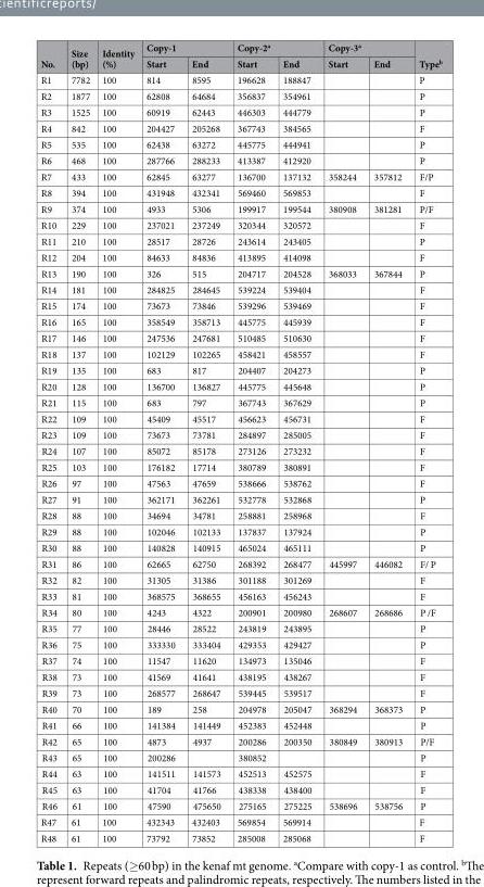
<table><thead><tr><td rowspan="2">No.</td><td rowspan="2">Size (bp)</td><td rowspan="2">Identity (%)</td><td colspan="2">Copy-1</td><td colspan="2">Copy-2<sup>a</sup></td><td colspan="2">Copy-3<sup>a</sup></td><td rowspan="2">Type<sup>b</sup></td></tr><tr><td>Start</td><td>End</td><td>Start</td><td>End</td><td>Start</td><td>End</td></tr></thead><tbody><tr><td>R1</td><td>7782</td><td>100</td><td>814</td><td>8595</td><td>196628</td><td>188847</td><td></td><td></td><td>P</td></tr><tr><td>R2</td><td>1877</td><td>100</td><td>62808</td><td>64684</td><td>356837</td><td>354961</td><td></td><td></td><td>P</td></tr><tr><td>R3</td><td>1525</td><td>100</td><td>60919</td><td>62443</td><td>446303</td><td>444779</td><td></td><td></td><td>P</td></tr><tr><td>R4</td><td>842</td><td>100</td><td>204427</td><td>205268</td><td>367743</td><td>384565</td><td></td><td></td><td>F</td></tr><tr><td>R5</td><td>535</td><td>100</td><td>62438</td><td>63272</td><td>445775</td><td>444941</td><td></td><td></td><td>P</td></tr><tr><td>R6</td><td>468</td><td>100</td><td>287766</td><td>288233</td><td>413387</td><td>412920</td><td></td><td></td><td>P</td></tr><tr><td>R7</td><td>433</td><td>100</td><td>62845</td><td>63277</td><td>136700</td><td>137132</td><td>358244</td><td>357812</td><td>F/P</td></tr><tr><td>R8</td><td>394</td><td>100</td><td>431948</td><td>432341</td><td>569460</td><td>569853</td><td></td><td></td><td>F</td></tr><tr><td>R9</td><td>374</td><td>100</td><td>4933</td><td>5306</td><td>199917</td><td>199544</td><td>380908</td><td>381281</td><td>P/F</td></tr><tr><td>R10</td><td>229</td><td>100</td><td>237021</td><td>237249</td><td>320344</td><td>320572</td><td></td><td></td><td>F</td></tr><tr><td>R11</td><td>210</td><td>100</td><td>28517</td><td>28726</td><td>243614</td><td>243405</td><td></td><td></td><td>P</td></tr><tr><td>R12</td><td>204</td><td>100</td><td>84633</td><td>84836</td><td>413895</td><td>414098</td><td></td><td></td><td>F</td></tr><tr><td>R13</td><td>190</td><td>100</td><td>326</td><td>515</td><td>204717</td><td>204528</td><td>368033</td><td>367844</td><td>P</td></tr><tr><td>R14</td><td>181</td><td>100</td><td>284825</td><td>284645</td><td>539224</td><td>539404</td><td></td><td></td><td>F</td></tr><tr><td>R15</td><td>174</td><td>100</td><td>73673</td><td>73846</td><td>539296</td><td>539469</td><td></td><td></td><td>F</td></tr><tr><td>R16</td><td>165</td><td>100</td><td>358549</td><td>358713</td><td>445775</td><td>445939</td><td></td><td></td><td>F</td></tr><tr><td>R17</td><td>146</td><td>100</td><td>247536</td><td>247681</td><td>510485</td><td>510630</td><td></td><td></td><td>F</td></tr><tr><td>R18</td><td>137</td><td>100</td><td>102129</td><td>102265</td><td>458421</td><td>458557</td><td></td><td></td><td>F</td></tr><tr><td>R19</td><td>135</td><td>100</td><td>683</td><td>817</td><td>204407</td><td>204273</td><td></td><td></td><td>P</td></tr><tr><td>R20</td><td>128</td><td>100</td><td>136700</td><td>136827</td><td>445775</td><td>445648</td><td></td><td></td><td>P</td></tr><tr><td>R21</td><td>115</td><td>100</td><td>683</td><td>797</td><td>367743</td><td>367629</td><td></td><td></td><td>P</td></tr><tr><td>R22</td><td>109</td><td>100</td><td>45409</td><td>45517</td><td>456623</td><td>456731</td><td></td><td></td><td>F</td></tr><tr><td>R23</td><td>109</td><td>100</td><td>73673</td><td>73781</td><td>284897</td><td>285005</td><td></td><td></td><td>F</td></tr><tr><td>R24</td><td>107</td><td>100</td><td>85072</td><td>85178</td><td>273126</td><td>273232</td><td></td><td></td><td>F</td></tr><tr><td>R25</td><td>103</td><td>100</td><td>176182</td><td>17714</td><td>380789</td><td>380891</td><td></td><td></td><td>F</td></tr><tr><td>R26</td><td>97</td><td>100</td><td>47563</td><td>47659</td><td>538666</td><td>538762</td><td></td><td></td><td>F</td></tr><tr><td>R27</td><td>91</td><td>100</td><td>362171</td><td>362261</td><td>532778</td><td>532868</td><td></td><td></td><td>P</td></tr><tr><td>R28</td><td>88</td><td>100</td><td>34694</td><td>34781</td><td>258881</td><td>258968</td><td></td><td></td><td>F</td></tr><tr><td>R29</td><td>88</td><td>100</td><td>102046</td><td>102133</td><td>137837</td><td>137924</td><td></td><td></td><td>P</td></tr><tr><td>R30</td><td>88</td><td>100</td><td>140828</td><td>140915</td><td>465024</td><td>465111</td><td></td><td></td><td>P</td></tr><tr><td>R31</td><td>86</td><td>100</td><td>62665</td><td>62750</td><td>268392</td><td>268477</td><td>445997</td><td>446082</td><td>F/ P</td></tr><tr><td>R32</td><td>82</td><td>100</td><td>31305</td><td>31386</td><td>301188</td><td>301269</td><td></td><td></td><td>F</td></tr><tr><td>R33</td><td>81</td><td>100</td><td>368575</td><td>368655</td><td>456163</td><td>456243</td><td></td><td></td><td>F</td></tr><tr><td>R34</td><td>80</td><td>100</td><td>4243</td><td>4322</td><td>200901</td><td>200980</td><td>268607</td><td>268686</td><td>P /F</td></tr><tr><td>R35</td><td>77</td><td>100</td><td>28446</td><td>28522</td><td>243819</td><td>243895</td><td></td><td></td><td>P</td></tr><tr><td>R36</td><td>75</td><td>100</td><td>333330</td><td>333404</td><td>429353</td><td>429427</td><td></td><td></td><td>P</td></tr><tr><td>R37</td><td>74</td><td>100</td><td>11547</td><td>11620</td><td>134973</td><td>135046</td><td></td><td></td><td>F</td></tr><tr><td>R38</td><td>73</td><td>100</td><td>41569</td><td>41641</td><td>438195</td><td>438267</td><td></td><td></td><td>F</td></tr><tr><td>R39</td><td>73</td><td>100</td><td>268577</td><td>268647</td><td>539445</td><td>539517</td><td></td><td></td><td>F</td></tr><tr><td>R40</td><td>70</td><td>100</td><td>189</td><td>258</td><td>204978</td><td>205047</td><td>368294</td><td>368373</td><td>P</td></tr><tr><td>R41</td><td>66</td><td>100</td><td>141384</td><td>141449</td><td>452383</td><td>452448</td><td></td><td></td><td>P</td></tr><tr><td>R42</td><td>65</td><td>100</td><td>4873</td><td>4937</td><td>200286</td><td>200350</td><td>380849</td><td>380913</td><td>P/F</td></tr><tr><td>R43</td><td>65</td><td>100</td><td>200286</td><td></td><td>380852</td><td></td><td></td><td></td><td>P</td></tr><tr><td>R44</td><td>63</td><td>100</td><td>141511</td><td>141573</td><td>452513</td><td>452575</td><td></td><td></td><td>F</td></tr><tr><td>R45</td><td>63</td><td>100</td><td>41704</td><td>41766</td><td>438338</td><td>438400</td><td></td><td></td><td>F</td></tr><tr><td>R46</td><td>61</td><td>100</td><td>47590</td><td>475650</td><td>275165</td><td>275225</td><td>538696</td><td>538756</td><td>P</td></tr><tr><td>R47</td><td>61</td><td>100</td><td>432343</td><td>432403</td><td>569854</td><td>569914</td><td></td><td></td><td>F</td></tr><tr><td>R48</td><td>61</td><td>100</td><td>73792</td><td>73852</td><td>285008</td><td>285068</td><td></td><td></td><td>F</td></tr></tbody></table>